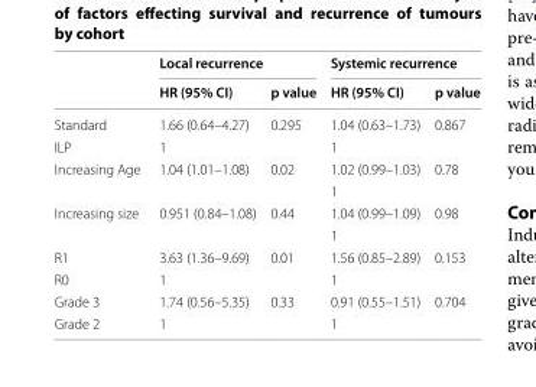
<table><thead><tr><td rowspan="2"></td><td colspan="2">Local recurrence</td><td colspan="2">Systemic recurrence</td></tr><tr><td>HR (95% CI)</td><td>p value</td><td>HR (95% CI)</td><td>p value</td></tr></thead><tbody><tr><td>Standard</td><td>1.66 (0.64–4.27)</td><td rowspan="2">0.295</td><td>1.04 (0.63–1.73)</td><td rowspan="2">0.867</td></tr><tr><td>ILP</td><td>1</td><td>1</td></tr><tr><td rowspan="2">Increasing Age</td><td>1.04 (1.01–1.08)</td><td>0.02</td><td>1.02 (0.99–1.03)</td><td>0.78</td></tr><tr><td></td><td></td><td>1</td><td></td></tr><tr><td rowspan="2">Increasing size</td><td>0.951 (0.84–1.08)</td><td>0.44</td><td>1.04 (0.99–1.09)</td><td>0.98</td></tr><tr><td></td><td></td><td>1</td><td></td></tr><tr><td>R1</td><td>3.63 (1.36–9.69)</td><td>0.01</td><td>1.56 (0.85–2.89)</td><td>0.153</td></tr><tr><td>R0</td><td>1</td><td></td><td>1</td><td></td></tr><tr><td>Grade 3</td><td>1.74 (0.56–5.35)</td><td rowspan="2">0.33</td><td>0.91 (0.55–1.51)</td><td rowspan="2">0.704</td></tr><tr><td>Grade 2</td><td>1</td><td>1</td></tr></tbody></table>